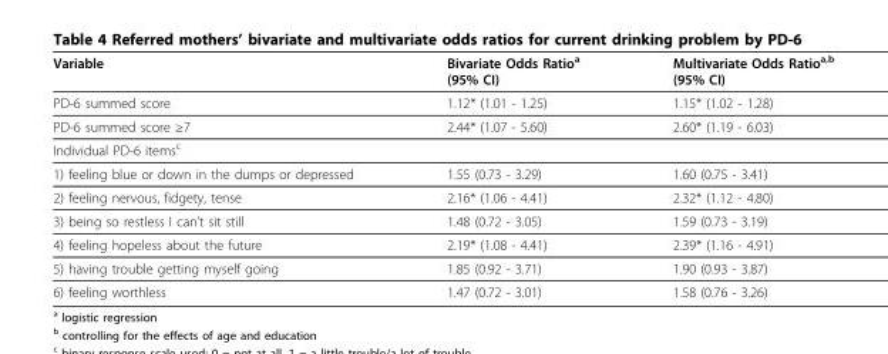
<table><thead><tr><td>Variable</td><td>Bivariate Odds Ratio<sup>a</sup> (95% CI)</td><td>Multivariate Odds Ratio<sup>a,b</sup> (95% CI)</td></tr></thead><tbody><tr><td>PD-6 summed score</td><td>1.12* (1.01 - 1.25)</td><td>1.15* (1.02 - 1.28)</td></tr><tr><td>PD-6 summed score ≥7</td><td>2.44* (1.07 - 5.60)</td><td>2.60* (1.19 - 6.03)</td></tr><tr><td colspan="3">Individual PD-6 items<sup>c</sup></td></tr><tr><td>1) feeling blue or down in the dumps or depressed</td><td>1.55 (0.73 - 3.29)</td><td>1.60 (0.75 - 3.41)</td></tr><tr><td>2) feeling nervous, fidgety, tense</td><td>2.16* (1.06 - 4.41)</td><td>2.32* (1.12 - 4.80)</td></tr><tr><td>3) being so restless I can’t sit still</td><td>1.48 (0.72 - 3.05)</td><td>1.59 (0.73 - 3.19)</td></tr><tr><td>4) feeling hopeless about the future</td><td>2.19* (1.08 - 4.41)</td><td>2.39* (1.16 - 4.91)</td></tr><tr><td>5) having trouble getting myself going</td><td>1.85 (0.92 - 3.71)</td><td>1.90 (0.93 - 3.87)</td></tr><tr><td>6) feeling worthless</td><td>1.47 (0.72 - 3.01)</td><td>1.58 (0.76 - 3.26)</td></tr></tbody></table>